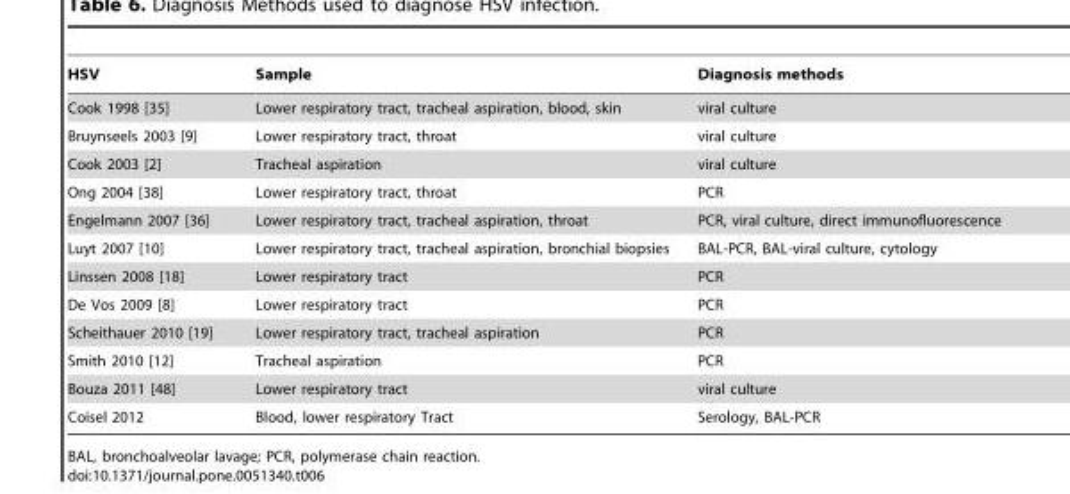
<table><thead><tr><td>HSV</td><td>Sample</td><td>Diagnosis methods</td></tr></thead><tbody><tr><td>Cook 1998 [35]</td><td>Lower respiratory tract, tracheal aspiration, blood, skin</td><td>viral culture</td></tr><tr><td>Bruynseels 2003 [9]</td><td>Lower respiratory tract, throat</td><td>viral culture</td></tr><tr><td>Cook 2003 [2]</td><td>Tracheal aspiration</td><td>viral culture</td></tr><tr><td>Ong 2004 [38]</td><td>Lower respiratory tract, throat</td><td>PCR</td></tr><tr><td>Engelmann 2007 [36]</td><td>Lower respiratory tract, tracheal aspiration, throat</td><td>PCR, viral culture, direct immunofluorescence</td></tr><tr><td>Luyt 2007 [10]</td><td>Lower respiratory tract, tracheal aspiration, bronchial biopsies</td><td>BAL-PCR, BAL-viral culture, cytology</td></tr><tr><td>Linssen 2008 [18]</td><td>Lower respiratory tract</td><td>PCR</td></tr><tr><td>De Vos 2009 [8]</td><td>Lower respiratory tract</td><td>PCR</td></tr><tr><td>Scheithauer 2010 [19]</td><td>Lower respiratory tract, tracheal aspiration</td><td>PCR</td></tr><tr><td>Smith 2010 [12]</td><td>Tracheal aspiration</td><td>PCR</td></tr><tr><td>Bouza 2011 [48]</td><td>Lower respiratory tract</td><td>viral culture</td></tr><tr><td>Coisel 2012</td><td>Blood, lower respiratory Tract</td><td>Serology, BAL-PCR</td></tr></tbody></table>